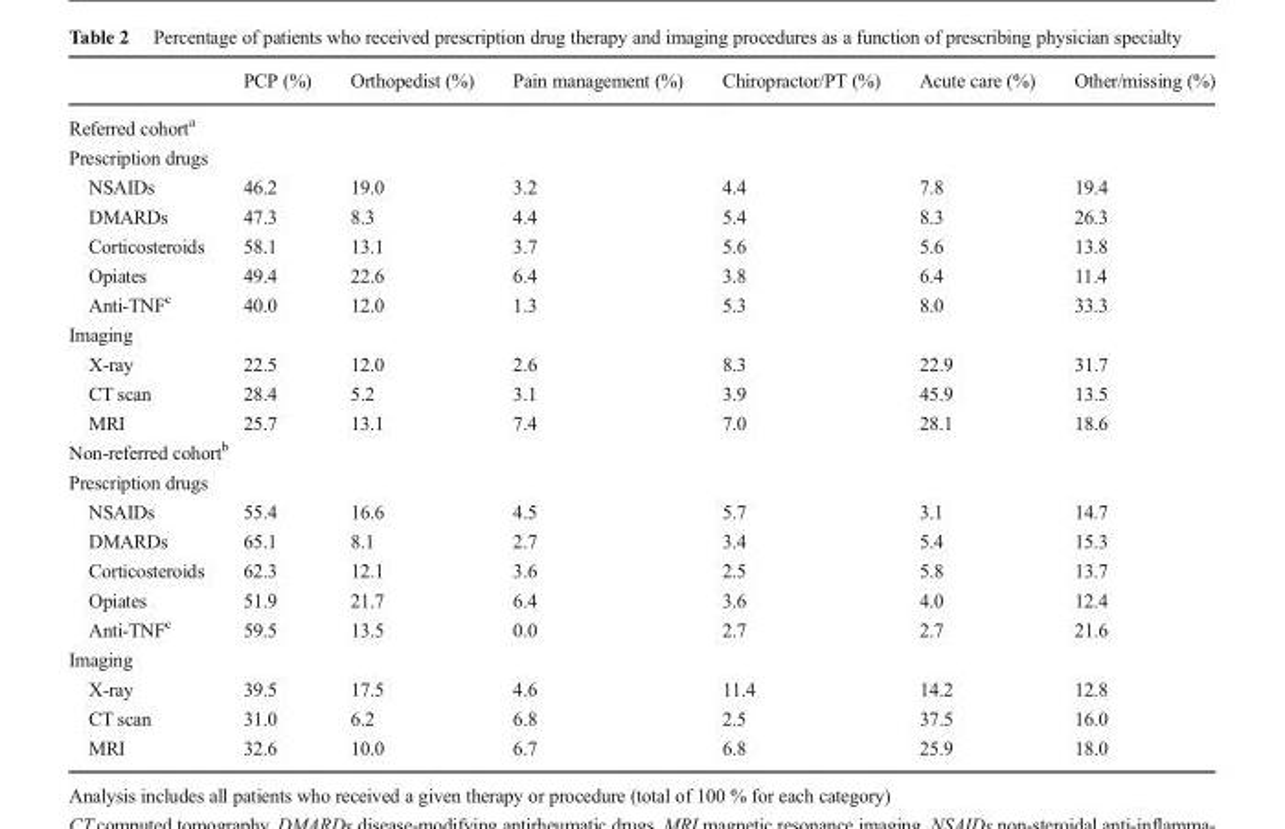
<table><thead><tr><td></td><td>PCP (%)</td><td>Orthopedist (%)</td><td>Pain management (%)</td><td>Chiropractor/PT (%)</td><td>Acute care (%)</td><td>Other/missing (%)</td></tr></thead><tbody><tr><td colspan="7">Referred cohort<sup>a</sup></td></tr><tr><td colspan="7">Prescription drugs</td></tr><tr><td>NSAIDs</td><td>46.2</td><td>19.0</td><td>3.2</td><td>4.4</td><td>7.8</td><td>19.4</td></tr><tr><td>DMARDs</td><td>47.3</td><td>8.3</td><td>4.4</td><td>5.4</td><td>8.3</td><td>26.3</td></tr><tr><td>Corticosteroids</td><td>58.1</td><td>13.1</td><td>3.7</td><td>5.6</td><td>5.6</td><td>13.8</td></tr><tr><td>Opiates</td><td>49.4</td><td>22.6</td><td>6.4</td><td>3.8</td><td>6.4</td><td>11.4</td></tr><tr><td>Anti-TNF<sup>c</sup></td><td>40.0</td><td>12.0</td><td>1.3</td><td>5.3</td><td>8.0</td><td>33.3</td></tr><tr><td colspan="7">Imaging</td></tr><tr><td>X-ray</td><td>22.5</td><td>12.0</td><td>2.6</td><td>8.3</td><td>22.9</td><td>31.7</td></tr><tr><td>CT scan</td><td>28.4</td><td>5.2</td><td>3.1</td><td>3.9</td><td>45.9</td><td>13.5</td></tr><tr><td>MRI</td><td>25.7</td><td>13.1</td><td>7.4</td><td>7.0</td><td>28.1</td><td>18.6</td></tr><tr><td colspan="7">Non-referred cohort<sup>b</sup></td></tr><tr><td colspan="7">Prescription drugs</td></tr><tr><td>NSAIDs</td><td>55.4</td><td>16.6</td><td>4.5</td><td>5.7</td><td>3.1</td><td>14.7</td></tr><tr><td>DMARDs</td><td>65.1</td><td>8.1</td><td>2.7</td><td>3.4</td><td>5.4</td><td>15.3</td></tr><tr><td>Corticosteroids</td><td>62.3</td><td>12.1</td><td>3.6</td><td>2.5</td><td>5.8</td><td>13.7</td></tr><tr><td>Opiates</td><td>51.9</td><td>21.7</td><td>6.4</td><td>3.6</td><td>4.0</td><td>12.4</td></tr><tr><td>Anti-TNF<sup>c</sup></td><td>59.5</td><td>13.5</td><td>0.0</td><td>2.7</td><td>2.7</td><td>21.6</td></tr><tr><td colspan="7">Imaging</td></tr><tr><td>X-ray</td><td>39.5</td><td>17.5</td><td>4.6</td><td>11.4</td><td>14.2</td><td>12.8</td></tr><tr><td>CT scan</td><td>31.0</td><td>6.2</td><td>6.8</td><td>2.5</td><td>37.5</td><td>16.0</td></tr><tr><td>MRI</td><td>32.6</td><td>10.0</td><td>6.7</td><td>6.8</td><td>25.9</td><td>18.0</td></tr></tbody></table>